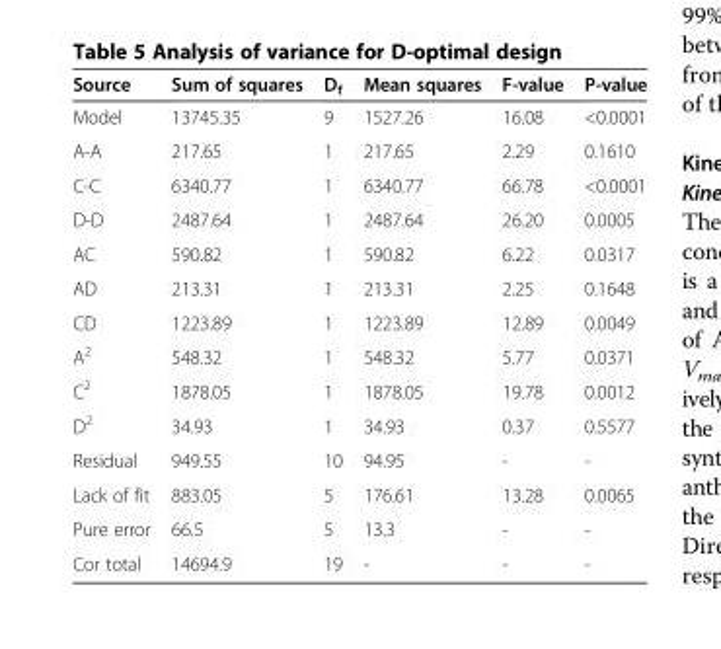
<table><thead><tr><td>Source</td><td>Sum of squares</td><td>D<sub>f</sub></td><td>Mean squares</td><td>F-value</td><td>P-value</td></tr></thead><tbody><tr><td>Model</td><td>13745.35</td><td>9</td><td>1527.26</td><td>16.08</td><td>&lt;0.0001</td></tr><tr><td>A-A</td><td>217.65</td><td>1</td><td>217.65</td><td>2.29</td><td>0.1610</td></tr><tr><td>C-C</td><td>6340.77</td><td>1</td><td>6340.77</td><td>66.78</td><td>&lt;0.0001</td></tr><tr><td>D-D</td><td>2487.64</td><td>1</td><td>2487.64</td><td>26.20</td><td>0.0005</td></tr><tr><td>AC</td><td>590.82</td><td>1</td><td>590.82</td><td>6.22</td><td>0.0317</td></tr><tr><td>AD</td><td>213.31</td><td>1</td><td>213.31</td><td>2.25</td><td>0.1648</td></tr><tr><td>CD</td><td>1223.89</td><td>1</td><td>1223.89</td><td>12.89</td><td>0.0049</td></tr><tr><td>A<sup>2</sup></td><td>548.32</td><td>1</td><td>548.32</td><td>5.77</td><td>0.0371</td></tr><tr><td>C<sup>2</sup></td><td>1878.05</td><td>1</td><td>1878.05</td><td>19.78</td><td>0.0012</td></tr><tr><td>D<sup>2</sup></td><td>34.93</td><td>1</td><td>34.93</td><td>0.37</td><td>0.5577</td></tr><tr><td>Residual</td><td>949.55</td><td>10</td><td>94.95</td><td>-</td><td>-</td></tr><tr><td>Lack of fit</td><td>883.05</td><td>5</td><td>176.61</td><td>13.28</td><td>0.0065</td></tr><tr><td>Pure error</td><td>66.5</td><td>5</td><td>13.3</td><td>-</td><td>-</td></tr><tr><td>Cor total</td><td>14694.9</td><td>19</td><td>-</td><td>-</td><td>-</td></tr></tbody></table>